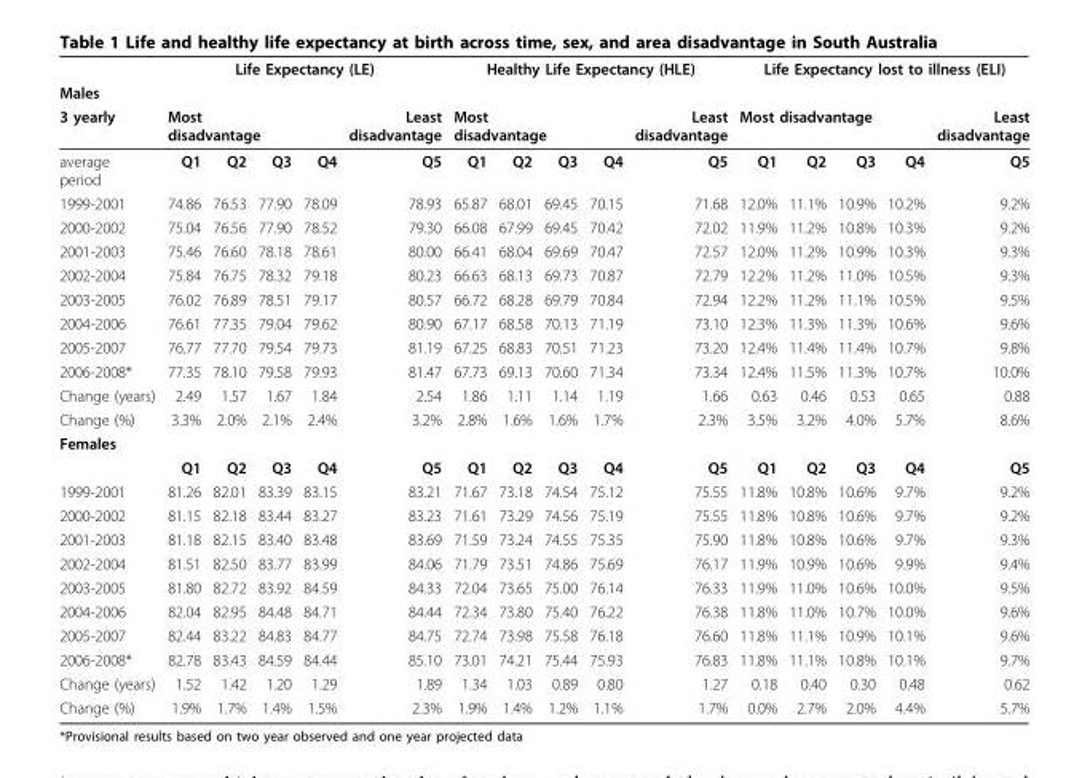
<table><thead><tr><td rowspan="3">Males 3 yearly</td><td colspan="5">Life Expectancy (LE)</td><td colspan="5">Healthy Life Expectancy (HLE)</td><td colspan="5">Life Expectancy lost to illness (ELI)</td></tr><tr><td></td><td></td><td></td><td rowspan="2"></td><td rowspan="2">Least disadvantage</td><td></td><td></td><td></td><td rowspan="2"></td><td rowspan="2">Least disadvantage</td><td></td><td></td><td></td><td rowspan="2"></td><td rowspan="2">Least disadvantage</td></tr><tr><td colspan="3">Most disadvantage</td><td colspan="3">Most disadvantage</td><td colspan="3">Most disadvantage</td></tr></thead><tbody><tr><td>average period</td><td>Q1</td><td>Q2</td><td>Q3</td><td>Q4</td><td>Q5</td><td>Q1</td><td>Q2</td><td>Q3</td><td>Q4</td><td>Q5</td><td>Q1</td><td>Q2</td><td>Q3</td><td>Q4</td><td>Q5</td></tr><tr><td>1999-2001</td><td>74.86</td><td>76.53</td><td>77.90</td><td>78.09</td><td>78.93</td><td>65.87</td><td>68.01</td><td>69.45</td><td>70.15</td><td>71.68</td><td>12.0%</td><td>11.1%</td><td>10.9%</td><td>10.2%</td><td>9.2%</td></tr><tr><td>2000-2002</td><td>75.04</td><td>76.56</td><td>77.90</td><td>78.52</td><td>79.30</td><td>66.08</td><td>67.99</td><td>69.45</td><td>70.42</td><td>72.02</td><td>11.9%</td><td>11.2%</td><td>10.8%</td><td>10.3%</td><td>9.2%</td></tr><tr><td>2001-2003</td><td>75.46</td><td>76.60</td><td>78.18</td><td>78.61</td><td>80.00</td><td>66.41</td><td>68.04</td><td>69.69</td><td>70.47</td><td>72.57</td><td>12.0%</td><td>11.2%</td><td>10.9%</td><td>10.3%</td><td>9.3%</td></tr><tr><td>2002-2004</td><td>75.84</td><td>76.75</td><td>78.32</td><td>79.18</td><td>80.23</td><td>66.63</td><td>68.13</td><td>69.73</td><td>70.87</td><td>72.79</td><td>12.2%</td><td>11.2%</td><td>11.0%</td><td>10.5%</td><td>9.3%</td></tr><tr><td>2003-2005</td><td>76.02</td><td>76.89</td><td>78.51</td><td>79.17</td><td>80.57</td><td>66.72</td><td>68.28</td><td>69.79</td><td>70.84</td><td>72.94</td><td>12.2%</td><td>11.2%</td><td>11.1%</td><td>10.5%</td><td>9.5%</td></tr><tr><td>2004-2006</td><td>76.61</td><td>77.35</td><td>79.04</td><td>79.62</td><td>80.90</td><td>67.17</td><td>68.58</td><td>70.13</td><td>71.19</td><td>73.10</td><td>12.3%</td><td>11.3%</td><td>11.3%</td><td>10.6%</td><td>9.6%</td></tr><tr><td>2005-2007</td><td>76.77</td><td>77.70</td><td>79.54</td><td>79.73</td><td>81.19</td><td>67.25</td><td>68.83</td><td>70.51</td><td>71.23</td><td>73.20</td><td>12.4%</td><td>11.4%</td><td>11.4%</td><td>10.7%</td><td>9.8%</td></tr><tr><td>2006-2008*</td><td>77.35</td><td>78.10</td><td>79.58</td><td>79.93</td><td>81.47</td><td>67.73</td><td>69.13</td><td>70.60</td><td>71.34</td><td>73.34</td><td>12.4%</td><td>11.5%</td><td>11.3%</td><td>10.7%</td><td>10.0%</td></tr><tr><td>Change (years)</td><td>2.49</td><td>1.57</td><td>1.67</td><td>1.84</td><td>2.54</td><td>1.86</td><td>1.11</td><td>1.14</td><td>1.19</td><td>1.66</td><td>0.63</td><td>0.46</td><td>0.53</td><td>0.65</td><td>0.88</td></tr><tr><td>Change (%)</td><td>3.3%</td><td>2.0%</td><td>2.1%</td><td>2.4%</td><td>3.2%</td><td>2.8%</td><td>1.6%</td><td>1.6%</td><td>1.7%</td><td>2.3%</td><td>3.5%</td><td>3.2%</td><td>4.0%</td><td>5.7%</td><td>8.6%</td></tr><tr><td colspan="16">Females</td></tr><tr><td></td><td>Q1</td><td>Q2</td><td>Q3</td><td>Q4</td><td>Q5</td><td>Q1</td><td>Q2</td><td>Q3</td><td>Q4</td><td>Q5</td><td>Q1</td><td>Q2</td><td>Q3</td><td>Q4</td><td>Q5</td></tr><tr><td>1999-2001</td><td>81.26</td><td>82.01</td><td>83.39</td><td>83.15</td><td>83.21</td><td>71.67</td><td>73.18</td><td>74.54</td><td>75.12</td><td>75.55</td><td>11.8%</td><td>10.8%</td><td>10.6%</td><td>9.7%</td><td>9.2%</td></tr><tr><td>2000-2002</td><td>81.15</td><td>82.18</td><td>83.44</td><td>83.27</td><td>83.23</td><td>71.61</td><td>73.29</td><td>74.56</td><td>75.19</td><td>75.55</td><td>11.8%</td><td>10.8%</td><td>10.6%</td><td>9.7%</td><td>9.2%</td></tr><tr><td>2001-2003</td><td>81.18</td><td>82.15</td><td>83.40</td><td>83.48</td><td>83.69</td><td>71.59</td><td>73.24</td><td>74.55</td><td>75.35</td><td>75.90</td><td>11.8%</td><td>10.8%</td><td>10.6%</td><td>9.7%</td><td>9.3%</td></tr><tr><td>2002-2004</td><td>81.51</td><td>82.50</td><td>83.77</td><td>83.99</td><td>84.06</td><td>71.79</td><td>73.51</td><td>74.86</td><td>75.69</td><td>76.17</td><td>11.9%</td><td>10.9%</td><td>10.6%</td><td>9.9%</td><td>9.4%</td></tr><tr><td>2003-2005</td><td>81.80</td><td>82.72</td><td>83.92</td><td>84.59</td><td>84.33</td><td>72.04</td><td>73.65</td><td>75.00</td><td>76.14</td><td>76.33</td><td>11.9%</td><td>11.0%</td><td>10.6%</td><td>10.0%</td><td>9.5%</td></tr><tr><td>2004-2006</td><td>82.04</td><td>82.95</td><td>84.48</td><td>84.71</td><td>84.44</td><td>72.34</td><td>73.80</td><td>75.40</td><td>76.22</td><td>76.38</td><td>11.8%</td><td>11.0%</td><td>10.7%</td><td>10.0%</td><td>9.6%</td></tr><tr><td>2005-2007</td><td>82.44</td><td>83.22</td><td>84.83</td><td>84.77</td><td>84.75</td><td>72.74</td><td>73.98</td><td>75.58</td><td>76.18</td><td>76.60</td><td>11.8%</td><td>11.1%</td><td>10.9%</td><td>10.1%</td><td>9.6%</td></tr><tr><td>2006-2008*</td><td>82.78</td><td>83.43</td><td>84.59</td><td>84.44</td><td>85.10</td><td>73.01</td><td>74.21</td><td>75.44</td><td>75.93</td><td>76.83</td><td>11.8%</td><td>11.1%</td><td>10.8%</td><td>10.1%</td><td>9.7%</td></tr><tr><td>Change (years)</td><td>1.52</td><td>1.42</td><td>1.20</td><td>1.29</td><td>1.89</td><td>1.34</td><td>1.03</td><td>0.89</td><td>0.80</td><td>1.27</td><td>0.18</td><td>0.40</td><td>0.30</td><td>0.48</td><td>0.62</td></tr><tr><td>Change (%)</td><td>1.9%</td><td>1.7%</td><td>1.4%</td><td>1.5%</td><td>2.3%</td><td>1.9%</td><td>1.4%</td><td>1.2%</td><td>1.1%</td><td>1.7%</td><td>0.0%</td><td>2.7%</td><td>2.0%</td><td>4.4%</td><td>5.7%</td></tr></tbody></table>